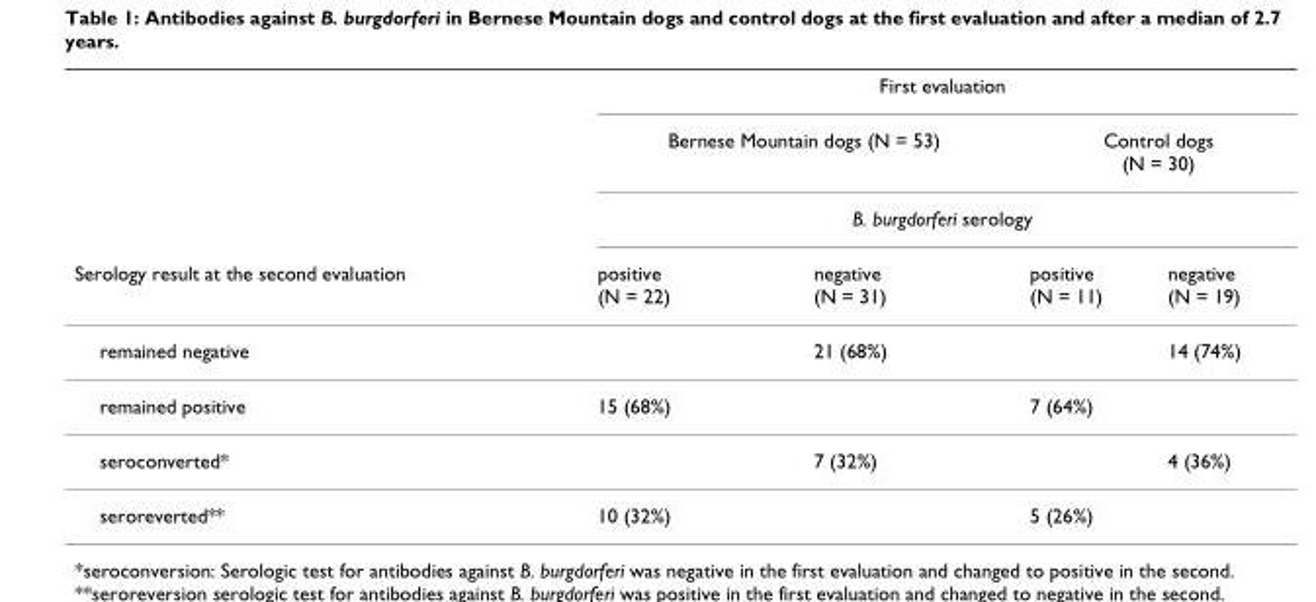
<table><thead><tr><td rowspan="4">Serology result at the second evaluation</td><td colspan="4">First evaluation</td></tr><tr><td colspan="2">Bernese Mountain dogs (N = 53)</td><td colspan="2">Control dogs (N = 30)</td></tr><tr><td colspan="4">B. burgdorferi serology</td></tr><tr><td>positive (N = 22)</td><td>negative (N = 31)</td><td>positive (N = 11)</td><td>negative (N = 19)</td></tr></thead><tbody><tr><td>remained negative</td><td></td><td>21 (68%)</td><td></td><td>14 (74%)</td></tr><tr><td>remained positive</td><td>15 (68%)</td><td></td><td>7 (64%)</td><td></td></tr><tr><td>seroconverted*</td><td></td><td>7 (32%)</td><td></td><td>4 (36%)</td></tr><tr><td>seroreverted**</td><td>10 (32%)</td><td></td><td>5 (26%)</td><td></td></tr></tbody></table>